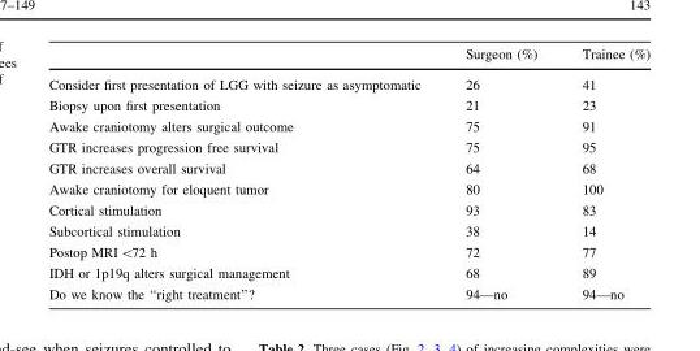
<table><thead><tr><td></td><td>Surgeon (%)</td><td>Trainee (%)</td></tr></thead><tbody><tr><td>Consider first presentation of LGG with seizure as asymptomatic</td><td>26</td><td>41</td></tr><tr><td>Biopsy upon first presentation</td><td>21</td><td>23</td></tr><tr><td>Awake craniotomy alters surgical outcome</td><td>75</td><td>91</td></tr><tr><td>GTR increases progression free survival</td><td>75</td><td>95</td></tr><tr><td>GTR increases overall survival</td><td>64</td><td>68</td></tr><tr><td>Awake craniotomy for eloquent tumor</td><td>80</td><td>100</td></tr><tr><td>Cortical stimulation</td><td>93</td><td>83</td></tr><tr><td>Subcortical stimulation</td><td>38</td><td>14</td></tr><tr><td>Postop MRI &lt;72 h</td><td>72</td><td>77</td></tr><tr><td>IDH or 1p19q alters surgical management</td><td>68</td><td>89</td></tr><tr><td>Do we know the ‘‘right treatment’’?</td><td>94—no</td><td>94—no</td></tr></tbody></table>